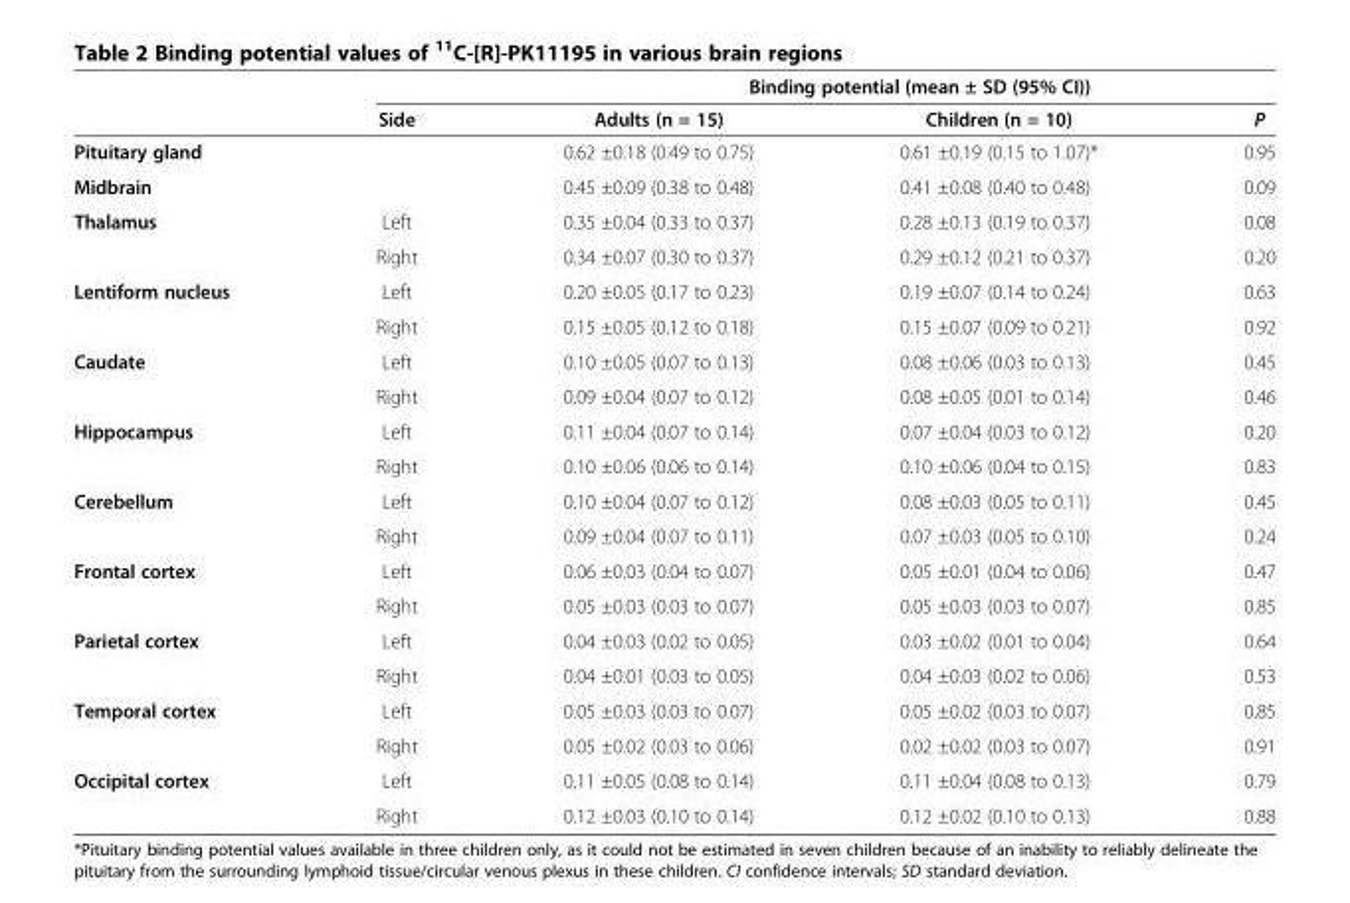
<table><thead><tr><td rowspan="2"></td><td rowspan="2">Side</td><td colspan="3">Binding potential (mean ± SD (95% CI))</td></tr><tr><td>Adults (n = 15)</td><td>Children (n = 10)</td><td>P</td></tr></thead><tbody><tr><td>Pituitary gland</td><td></td><td>0.62 ±0.18 (0.49 to 0.75)</td><td>0.61 ±0.19 (0.15 to 1.07)*</td><td>0.95</td></tr><tr><td>Midbrain</td><td></td><td>0.45 ±0.09 (0.38 to 0.48)</td><td>0.41 ±0.08 (0.40 to 0.48)</td><td>0.09</td></tr><tr><td rowspan="2">Thalamus</td><td>Left</td><td>0.35 ±0.04 (0.33 to 0.37)</td><td>0.28 ±0.13 (0.19 to 0.37)</td><td>0.08</td></tr><tr><td>Right</td><td>0.34 ±0.07 (0.30 to 0.37)</td><td>0.29 ±0.12 (0.21 to 0.37)</td><td>0.20</td></tr><tr><td rowspan="2">Lentiform nucleus</td><td>Left</td><td>0.20 ±0.05 (0.17 to 0.23)</td><td>0.19 ±0.07 (0.14 to 0.24)</td><td>0.63</td></tr><tr><td>Right</td><td>0.15 ±0.05 (0.12 to 0.18)</td><td>0.15 ±0.07 (0.09 to 0.21)</td><td>0.92</td></tr><tr><td rowspan="2">Caudate</td><td>Left</td><td>0.10 ±0.05 (0.07 to 0.13)</td><td>0.08 ±0.06 (0.03 to 0.13)</td><td>0.45</td></tr><tr><td>Right</td><td>0.09 ±0.04 (0.07 to 0.12)</td><td>0.08 ±0.05 (0.01 to 0.14)</td><td>0.46</td></tr><tr><td rowspan="2">Hippocampus</td><td>Left</td><td>0.11 ±0.04 (0.07 to 0.14)</td><td>0.07 ±0.04 (0.03 to 0.12)</td><td>0.20</td></tr><tr><td>Right</td><td>0.10 ±0.06 (0.06 to 0.14)</td><td>0.10 ±0.06 (0.04 to 0.15)</td><td>0.83</td></tr><tr><td rowspan="2">Cerebellum</td><td>Left</td><td>0.10 ±0.04 (0.07 to 0.12)</td><td>0.08 ±0.03 (0.05 to 0.11)</td><td>0.45</td></tr><tr><td>Right</td><td>0.09 ±0.04 (0.07 to 0.11)</td><td>0.07 ±0.03 (0.05 to 0.10)</td><td>0.24</td></tr><tr><td rowspan="2">Frontal cortex</td><td>Left</td><td>0.06 ±0.03 (0.04 to 0.07)</td><td>0.05 ±0.01 (0.04 to 0.06)</td><td>0.47</td></tr><tr><td>Right</td><td>0.05 ±0.03 (0.03 to 0.07)</td><td>0.05 ±0.03 (0.03 to 0.07)</td><td>0.85</td></tr><tr><td rowspan="2">Parietal cortex</td><td>Left</td><td>0.04 ±0.03 (0.02 to 0.05)</td><td>0.03 ±0.02 (0.01 to 0.04)</td><td>0.64</td></tr><tr><td>Right</td><td>0.04 ±0.01 (0.03 to 0.05)</td><td>0.04 ±0.03 (0.02 to 0.06)</td><td>0.53</td></tr><tr><td rowspan="2">Temporal cortex</td><td>Left</td><td>0.05 ±0.03 (0.03 to 0.07)</td><td>0.05 ±0.02 (0.03 to 0.07)</td><td>0.85</td></tr><tr><td>Right</td><td>0.05 ±0.02 (0.03 to 0.06)</td><td>0.02 ±0.02 (0.03 to 0.07)</td><td>0.91</td></tr><tr><td rowspan="2">Occipital cortex</td><td>Left</td><td>0.11 ±0.05 (0.08 to 0.14)</td><td>0.11 ±0.04 (0.08 to 0.13)</td><td>0.79</td></tr><tr><td>Right</td><td>0.12 ±0.03 (0.10 to 0.14)</td><td>0.12 ±0.02 (0.10 to 0.13)</td><td>0.88</td></tr></tbody></table>